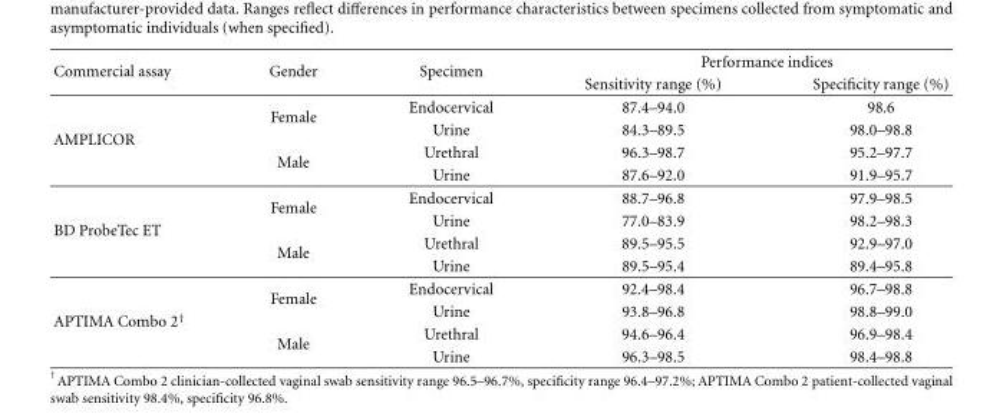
<table><thead><tr><td rowspan="2">Commercial assay</td><td rowspan="2">Gender</td><td rowspan="2">Specimen</td><td colspan="2">Performance indices</td></tr><tr><td>Sensitivity range (%)</td><td>Specificity range (%)</td></tr></thead><tbody><tr><td rowspan="4">AMPLICOR</td><td rowspan="2">Female</td><td>Endocervical</td><td>87.4–94.0</td><td>98.6</td></tr><tr><td>Urine</td><td>84.3–89.5</td><td>98.0–98.8</td></tr><tr><td rowspan="2">Male</td><td>Urethral</td><td>96.3–98.7</td><td>95.2–97.7</td></tr><tr><td>Urine</td><td>87.6–92.0</td><td>91.9–95.7</td></tr><tr><td rowspan="4">BD ProbeTec ET</td><td rowspan="2">Female</td><td>Endocervical</td><td>88.7–96.8</td><td>97.9–98.5</td></tr><tr><td>Urine</td><td>77.0–83.9</td><td>98.2–98.3</td></tr><tr><td rowspan="2">Male</td><td>Urethral</td><td>89.5–95.5</td><td>92.9–97.0</td></tr><tr><td>Urine</td><td>89.5–95.4</td><td>89.4–95.8</td></tr><tr><td rowspan="4">APTIMA Combo 2<sup>†</sup></td><td rowspan="2">Female</td><td>Endocervical</td><td>92.4–98.4</td><td>96.7–98.8</td></tr><tr><td>Urine</td><td>93.8–96.8</td><td>98.8–99.0</td></tr><tr><td rowspan="2">Male</td><td>Urethral</td><td>94.6–96.4</td><td>96.9–98.4</td></tr><tr><td>Urine</td><td>96.3–98.5</td><td>98.4–98.8</td></tr></tbody></table>